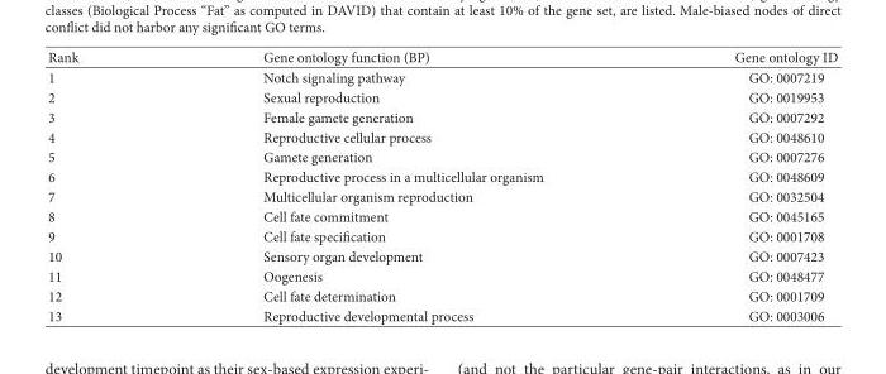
<table><thead><tr><td>Rank</td><td>Gene ontology function (BP)</td><td>Gene ontology ID</td></tr></thead><tbody><tr><td>1</td><td>Notch signaling pathway</td><td>GO: 0007219</td></tr><tr><td>2</td><td>Sexual reproduction</td><td>GO: 0019953</td></tr><tr><td>3</td><td>Female gamete generation</td><td>GO: 0007292</td></tr><tr><td>4</td><td>Reproductive cellular process</td><td>GO: 0048610</td></tr><tr><td>5</td><td>Gamete generation</td><td>GO: 0007276</td></tr><tr><td>6</td><td>Reproductive process in a multicellular organism</td><td>GO: 0048609</td></tr><tr><td>7</td><td>Multicellular organism reproduction</td><td>GO: 0032504</td></tr><tr><td>8</td><td>Cell fate commitment</td><td>GO: 0045165</td></tr><tr><td>9</td><td>Cell fate speci�cation</td><td>GO: 0001708</td></tr><tr><td>10</td><td>Sensory organ development</td><td>GO: 0007423</td></tr><tr><td>11</td><td>Oogenesis</td><td>GO: 0048477</td></tr><tr><td>12</td><td>Cell fate determination</td><td>GO: 0001709</td></tr><tr><td>13</td><td>Reproductive developmental process</td><td>GO: 0003006</td></tr></tbody></table>